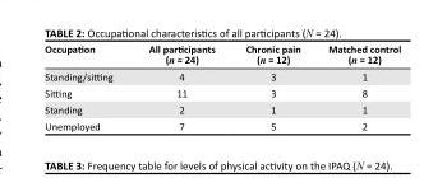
<table><thead><tr><td>Occupation</td><td>All participants (n = 24)</td><td>Chronic pain (n = 12)</td><td>Matched control (n = 12)</td></tr></thead><tbody><tr><td>Standing/sitting</td><td>4</td><td>3</td><td>1</td></tr><tr><td>Sitting</td><td>11</td><td>3</td><td>8</td></tr><tr><td>Standing</td><td>2</td><td>1</td><td>1</td></tr><tr><td>Unemployed</td><td>7</td><td>5</td><td>2</td></tr></tbody></table>